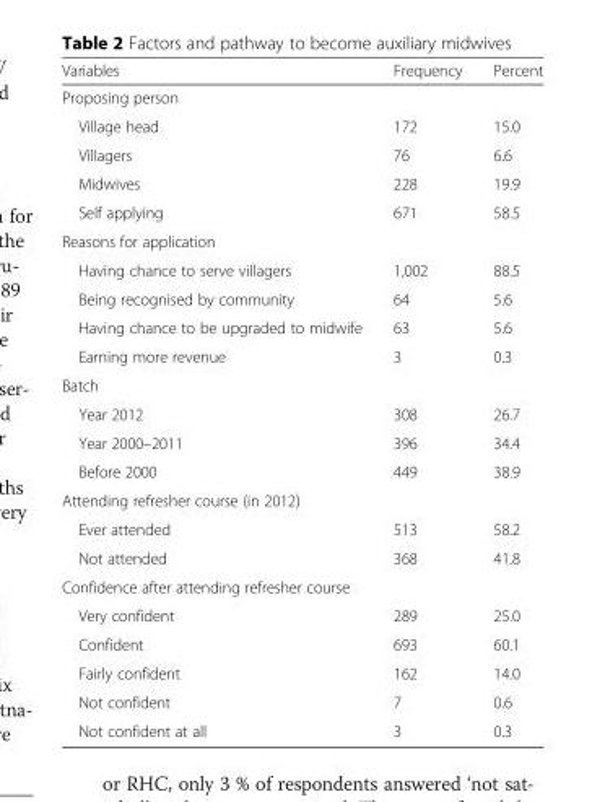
<table><thead><tr><td>Variables</td><td>Frequency</td><td>Percent</td></tr></thead><tbody><tr><td colspan="3">Proposing person</td></tr><tr><td>Village head</td><td>172</td><td>15.0</td></tr><tr><td>Villagers</td><td>76</td><td>6.6</td></tr><tr><td>Midwives</td><td>228</td><td>19.9</td></tr><tr><td>Self applying</td><td>671</td><td>58.5</td></tr><tr><td colspan="3">Reasons for application</td></tr><tr><td>Having chance to serve villagers</td><td>1,002</td><td>88.5</td></tr><tr><td>Being recognised by community</td><td>64</td><td>5.6</td></tr><tr><td>Having chance to be upgraded to midwife</td><td>63</td><td>5.6</td></tr><tr><td>Earning more revenue</td><td>3</td><td>0.3</td></tr><tr><td colspan="3">Batch</td></tr><tr><td>Year 2012</td><td>308</td><td>26.7</td></tr><tr><td>Year 2000–2011</td><td>396</td><td>34.4</td></tr><tr><td>Before 2000</td><td>449</td><td>38.9</td></tr><tr><td colspan="3">Attending refresher course (in 2012)</td></tr><tr><td>Ever attended</td><td>513</td><td>58.2</td></tr><tr><td>Not attended</td><td>368</td><td>41.8</td></tr><tr><td colspan="3">Confidence after attending refresher course</td></tr><tr><td>Very confident</td><td>289</td><td>25.0</td></tr><tr><td>Confident</td><td>693</td><td>60.1</td></tr><tr><td>Fairly confident</td><td>162</td><td>14.0</td></tr><tr><td>Not confident</td><td>7</td><td>0.6</td></tr><tr><td>Not confident at all</td><td>3</td><td>0.3</td></tr></tbody></table>